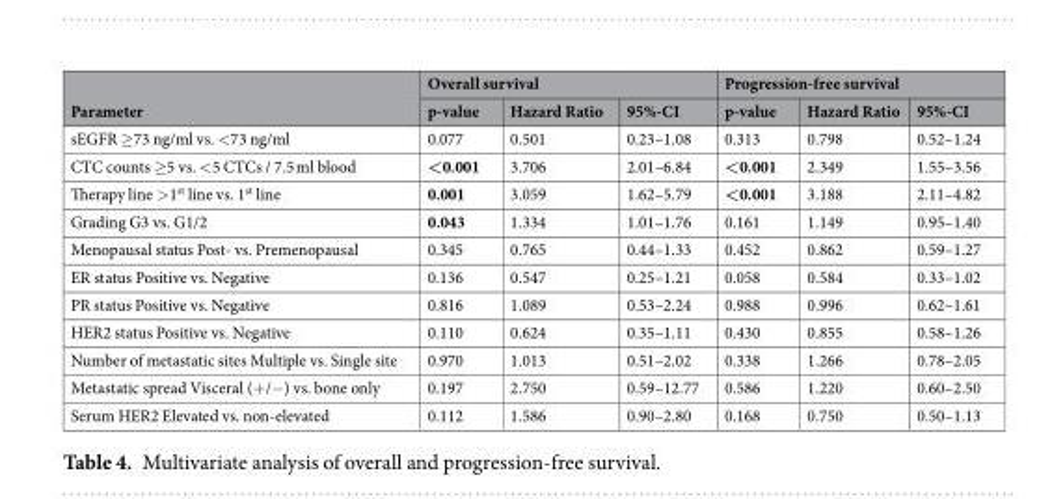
<table><thead><tr><td rowspan="2">Parameter</td><td colspan="3">Overall survival</td><td colspan="3">Progression-free survival</td></tr><tr><td>p-value</td><td>Hazard Ratio</td><td>95%-CI</td><td>p-value</td><td>Hazard Ratio</td><td>95%-CI</td></tr></thead><tbody><tr><td>sEGFR ≥73 ng/ml vs. &lt;73 ng/ml</td><td>0.077</td><td>0.501</td><td>0.23–1.08</td><td>0.313</td><td>0.798</td><td>0.52–1.24</td></tr><tr><td>CTC counts ≥5 vs. &lt;5 CTCs / 7.5 ml blood</td><td>&lt;0.001</td><td>3.706</td><td>2.01–6.84</td><td>&lt;0.001</td><td>2.349</td><td>1.55–3.56</td></tr><tr><td>Therapy line &gt;1<sup>st</sup> line vs. 1<sup>st</sup> line</td><td>0.001</td><td>3.059</td><td>1.62–5.79</td><td>&lt;0.001</td><td>3.188</td><td>2.11–4.82</td></tr><tr><td>Grading G3 vs. G1/2</td><td>0.043</td><td>1.334</td><td>1.01–1.76</td><td>0.161</td><td>1.149</td><td>0.95–1.40</td></tr><tr><td>Menopausal status Post- vs. Premenopausal</td><td>0.345</td><td>0.765</td><td>0.44–1.33</td><td>0.452</td><td>0.862</td><td>0.59–1.27</td></tr><tr><td>ER status Positive vs. Negative</td><td>0.136</td><td>0.547</td><td>0.25–1.21</td><td>0.058</td><td>0.584</td><td>0.33–1.02</td></tr><tr><td>PR status Positive vs. Negative</td><td>0.816</td><td>1.089</td><td>0.53–2.24</td><td>0.988</td><td>0.996</td><td>0.62–1.61</td></tr><tr><td>HER2 status Positive vs. Negative</td><td>0.110</td><td>0.624</td><td>0.35–1.11</td><td>0.430</td><td>0.855</td><td>0.58–1.26</td></tr><tr><td>Number of metastatic sites Multiple vs. Single site</td><td>0.970</td><td>1.013</td><td>0.51–2.02</td><td>0.338</td><td>1.266</td><td>0.78–2.05</td></tr><tr><td>Metastatic spread Visceral (+/−) vs. bone only</td><td>0.197</td><td>2.750</td><td>0.59–12.77</td><td>0.586</td><td>1.220</td><td>0.60–2.50</td></tr><tr><td>Serum HER2 Elevated vs. non-elevated</td><td>0.112</td><td>1.586</td><td>0.90–2.80</td><td>0.168</td><td>0.750</td><td>0.50–1.13</td></tr></tbody></table>